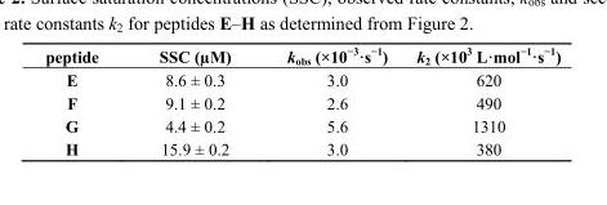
<table><thead><tr><td>peptide</td><td>SSC (µM)</td><td>k<sub>obs</sub> (×10<sup>−3</sup>·s<sup>−1</sup>)</td><td>k<sub>2</sub> (×10<sup>3</sup> L·mol<sup>−1</sup>·s<sup>−1</sup>)</td></tr></thead><tbody><tr><td>E</td><td>8.6 ± 0.3</td><td>3.0</td><td>620</td></tr><tr><td>F</td><td>9.1 ± 0.2</td><td>2.6</td><td>490</td></tr><tr><td>G</td><td>4.4 ± 0.2</td><td>5.6</td><td>1310</td></tr><tr><td>H</td><td>15.9 ± 0.2</td><td>3.0</td><td>380</td></tr></tbody></table>